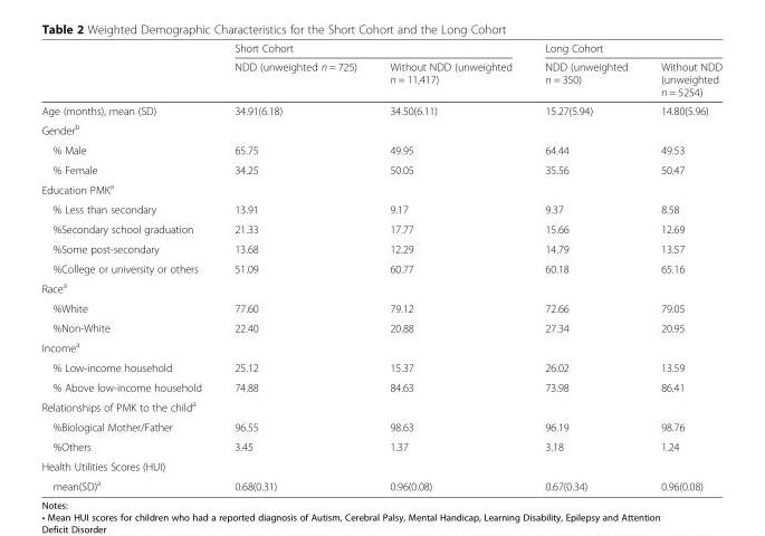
<table><thead><tr><td rowspan="2"></td><td colspan="2">Short Cohort</td><td colspan="2">Long Cohort</td></tr><tr><td>NDD (unweighted n = 725)</td><td>Without NDD (unweighted n = 11,417)</td><td>NDD (unweighted n = 350)</td><td>Without NDD (unweighted n = 5254)</td></tr></thead><tbody><tr><td>Age (months), mean (SD)</td><td>34.91(6.18)</td><td>34.50(6.11)</td><td>15.27(5.94)</td><td>14.80(5.96)</td></tr><tr><td colspan="5">Gender<sup>b</sup></td></tr><tr><td>% Male</td><td>65.75</td><td>49.95</td><td>64.44</td><td>49.53</td></tr><tr><td>% Female</td><td>34.25</td><td>50.05</td><td>35.56</td><td>50.47</td></tr><tr><td colspan="5">Education PMK<sup>a</sup></td></tr><tr><td>% Less than secondary</td><td>13.91</td><td>9.17</td><td>9.37</td><td>8.58</td></tr><tr><td>%Secondary school graduation</td><td>21.33</td><td>17.77</td><td>15.66</td><td>12.69</td></tr><tr><td>%Some post-secondary</td><td>13.68</td><td>12.29</td><td>14.79</td><td>13.57</td></tr><tr><td>%College or university or others</td><td>51.09</td><td>60.77</td><td>60.18</td><td>65.16</td></tr><tr><td colspan="5">Race<sup>a</sup></td></tr><tr><td>%White</td><td>77.60</td><td>79.12</td><td>72.66</td><td>79.05</td></tr><tr><td>%Non-White</td><td>22.40</td><td>20.88</td><td>27.34</td><td>20.95</td></tr><tr><td colspan="5">Income<sup>a</sup></td></tr><tr><td>% Low-income household</td><td>25.12</td><td>15.37</td><td>26.02</td><td>13.59</td></tr><tr><td>% Above low-income household</td><td>74.88</td><td>84.63</td><td>73.98</td><td>86.41</td></tr><tr><td colspan="5">Relationships of PMK to the child<sup>a</sup></td></tr><tr><td>%Biological Mother/Father</td><td>96.55</td><td>98.63</td><td>96.19</td><td>98.76</td></tr><tr><td>%Others</td><td>3.45</td><td>1.37</td><td>3.18</td><td>1.24</td></tr><tr><td colspan="5">Health Utilities Scores (HUI)</td></tr><tr><td>mean(SD)<sup>a</sup></td><td>0.68(0.31)</td><td>0.96(0.08)</td><td>0.67(0.34)</td><td>0.96(0.08)</td></tr></tbody></table>